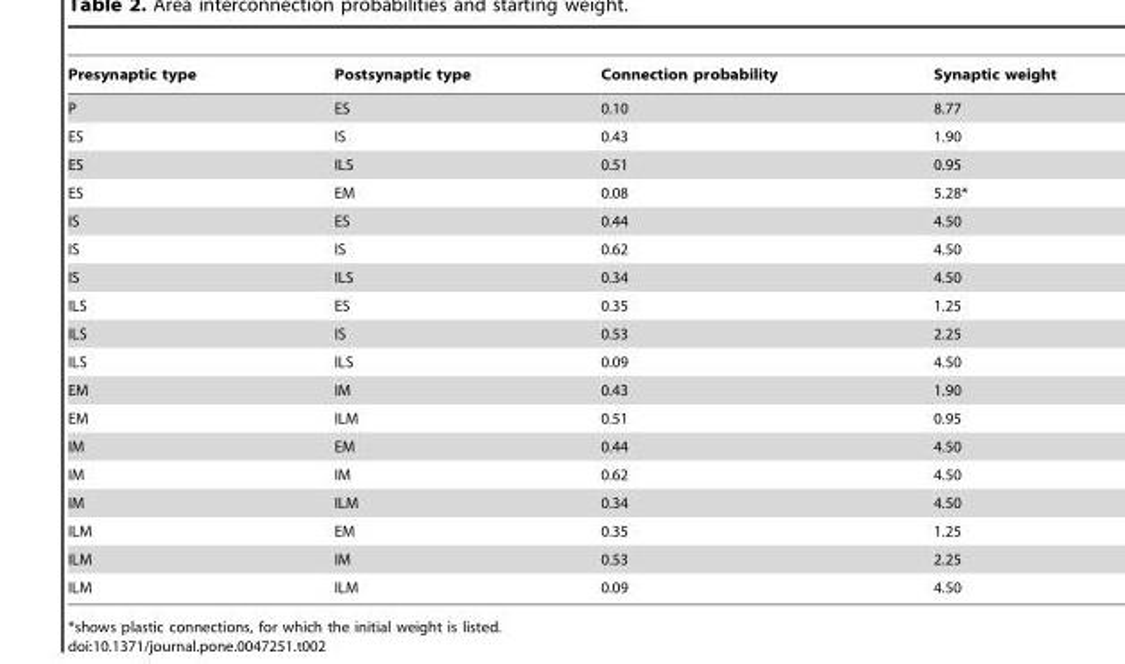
<table><thead><tr><td>Presynaptic type</td><td>Postsynaptic type</td><td>Connection probability</td><td>Synaptic weight</td></tr></thead><tbody><tr><td>P</td><td>ES</td><td>0.10</td><td>8.77</td></tr><tr><td>ES</td><td>IS</td><td>0.43</td><td>1.90</td></tr><tr><td>ES</td><td>ILS</td><td>0.51</td><td>0.95</td></tr><tr><td>ES</td><td>EM</td><td>0.08</td><td>5.28*</td></tr><tr><td>IS</td><td>ES</td><td>0.44</td><td>4.50</td></tr><tr><td>IS</td><td>IS</td><td>0.62</td><td>4.50</td></tr><tr><td>IS</td><td>ILS</td><td>0.34</td><td>4.50</td></tr><tr><td>ILS</td><td>ES</td><td>0.35</td><td>1.25</td></tr><tr><td>ILS</td><td>IS</td><td>0.53</td><td>2.25</td></tr><tr><td>ILS</td><td>ILS</td><td>0.09</td><td>4.50</td></tr><tr><td>EM</td><td>IM</td><td>0.43</td><td>1.90</td></tr><tr><td>EM</td><td>ILM</td><td>0.51</td><td>0.95</td></tr><tr><td>IM</td><td>EM</td><td>0.44</td><td>4.50</td></tr><tr><td>IM</td><td>IM</td><td>0.62</td><td>4.50</td></tr><tr><td>IM</td><td>ILM</td><td>0.34</td><td>4.50</td></tr><tr><td>ILM</td><td>EM</td><td>0.35</td><td>1.25</td></tr><tr><td>ILM</td><td>IM</td><td>0.53</td><td>2.25</td></tr><tr><td>ILM</td><td>ILM</td><td>0.09</td><td>4.50</td></tr></tbody></table>